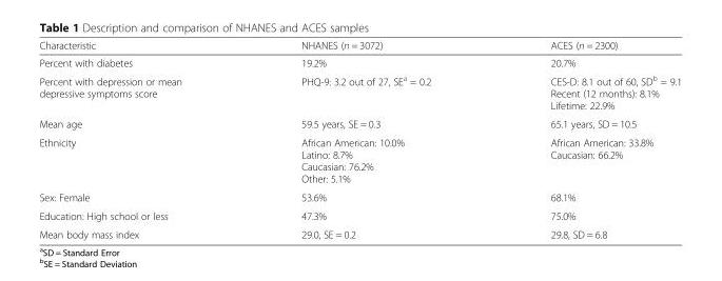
<table><thead><tr><td>Characteristic</td><td>NHANES (n = 3072)</td><td>ACES (n = 2300)</td></tr></thead><tbody><tr><td>Percent with diabetes</td><td>19.2%</td><td>20.7%</td></tr><tr><td>Percent with depression or mean depressive symptoms score</td><td>PHQ-9: 3.2 out of 27, SE<sup>a</sup> = 0.2</td><td>CES-D: 8.1 out of 60, SD<sup>b</sup> = 9.1 Recent (12 months): 8.1% Lifetime: 22.9%</td></tr><tr><td>Mean age</td><td>59.5 years, SE = 0.3</td><td>65.1 years, SD = 10.5</td></tr><tr><td>Ethnicity</td><td>African American: 10.0% Latino: 8.7% Caucasian: 76.2% Other: 5.1%</td><td>African American: 33.8% Caucasian: 66.2%</td></tr><tr><td>Sex: Female</td><td>53.6%</td><td>68.1%</td></tr><tr><td>Education: High school or less</td><td>47.3%</td><td>75.0%</td></tr><tr><td>Mean body mass index</td><td>29.0, SE = 0.2</td><td>29.8, SD = 6.8</td></tr></tbody></table>